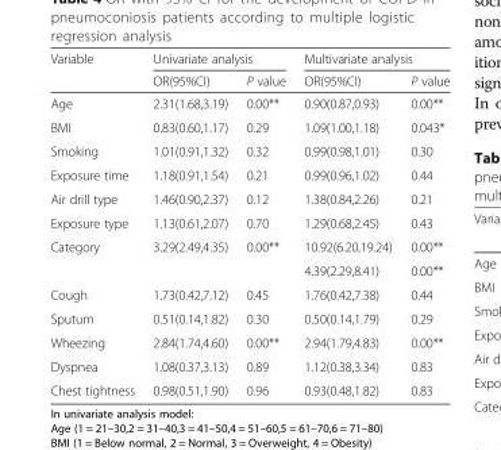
<table><thead><tr><td rowspan="2">Variable</td><td colspan="2">Univariate analysis</td><td colspan="2">Multivariate analysis</td></tr><tr><td>OR(95%CI)</td><td>P value</td><td>OR(95%CI)</td><td>P value</td></tr></thead><tbody><tr><td>Age</td><td>2.31(1.68,3.19)</td><td>0.00**</td><td>0.90(0.87,0.93)</td><td>0.00**</td></tr><tr><td>BMI</td><td>0.83(0.60,1.17)</td><td>0.29</td><td>1.09(1.00,1.18)</td><td>0.043*</td></tr><tr><td>Smoking</td><td>1.01(0.91,1.32)</td><td>0.32</td><td>0.99(0.98,1.01)</td><td>0.30</td></tr><tr><td>Exposure time</td><td>1.18(0.91,1.54)</td><td>0.21</td><td>0.99(0.96,1.02)</td><td>0.44</td></tr><tr><td>Air drill type</td><td>1.46(0.90,2.37)</td><td>0.12</td><td>1.38(0.84,2.26)</td><td>0.21</td></tr><tr><td>Exposure type</td><td>1.13(0.61,2.07)</td><td>0.70</td><td>1.29(0.68,2.45)</td><td>0.43</td></tr><tr><td rowspan="2">Category</td><td>3.29(2.49,4.35)</td><td>0.00**</td><td>10.92(6.20,19.24)</td><td>0.00**</td></tr><tr><td></td><td></td><td>4.39(2.29,8.41)</td><td>0.00**</td></tr><tr><td>Cough</td><td>1.73(0.42,7.12)</td><td>0.45</td><td>1.76(0.42,7.38)</td><td>0.44</td></tr><tr><td>Sputum</td><td>0.51(0.14,1.82)</td><td>0.30</td><td>0.50(0.14,1.79)</td><td>0.29</td></tr><tr><td>Wheezing</td><td>2.84(1.74,4.60)</td><td>0.00**</td><td>2.94(1.79,4.83)</td><td>0.00**</td></tr><tr><td>Dyspnea</td><td>1.08(0.37,3.13)</td><td>0.89</td><td>1.12(0.38,3.34)</td><td>0.83</td></tr><tr><td>Chest tightness</td><td>0.98(0.51,1.90)</td><td>0.96</td><td>0.93(0.48,1.82)</td><td>0.83</td></tr></tbody></table>